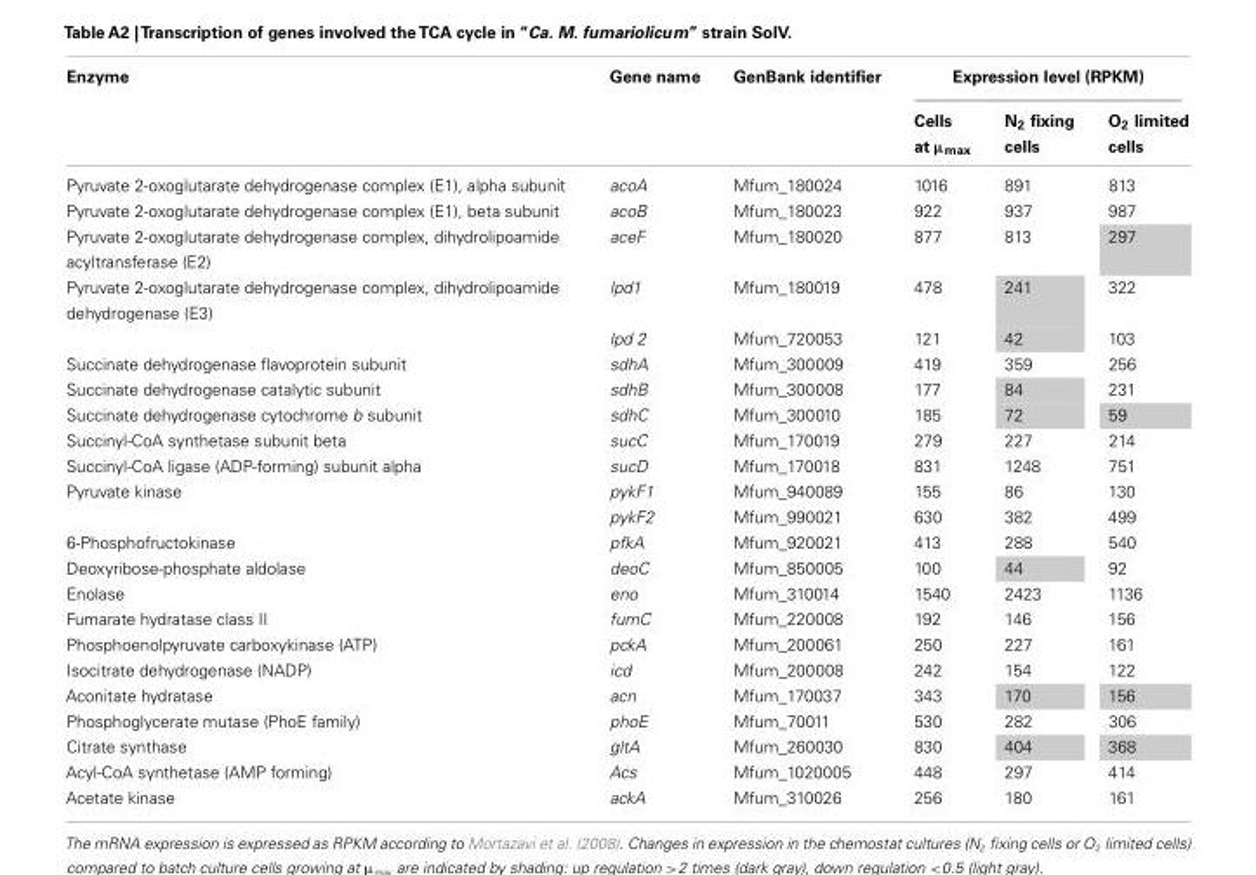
<table><thead><tr><td rowspan="2">Enzyme</td><td rowspan="2">Gene name</td><td rowspan="2">GenBank identifier</td><td colspan="3">Expression level (RPKM)</td></tr><tr><td>Cells at µ<sub>max</sub></td><td>N<sub>2</sub> fixing cells</td><td>O<sub>2</sub> limited cells</td></tr></thead><tbody><tr><td>Pyruvate 2-oxoglutarate dehydrogenase complex (E1), alpha subunit</td><td>acoA</td><td>Mfum_180024</td><td>1016</td><td>891</td><td>813</td></tr><tr><td>Pyruvate 2-oxoglutarate dehydrogenase complex (E1), beta subunit</td><td>acoB</td><td>Mfum_180023</td><td>922</td><td>937</td><td>987</td></tr><tr><td>Pyruvate 2-oxoglutarate dehydrogenase complex, dihydrolipoamide acyltransferase (E2)</td><td>aceF</td><td>Mfum_180020</td><td>877</td><td>813</td><td>297</td></tr><tr><td rowspan="2">Pyruvate 2-oxoglutarate dehydrogenase complex, dihydrolipoamide dehydrogenase (E3)</td><td>lpd1</td><td>Mfum_180019</td><td>478</td><td>241</td><td>322</td></tr><tr><td>lpd 2</td><td>Mfum_720053</td><td>121</td><td>42</td><td>103</td></tr><tr><td>Succinate dehydrogenase flavoprotein subunit</td><td>sdhA</td><td>Mfum_300009</td><td>419</td><td>359</td><td>256</td></tr><tr><td>Succinate dehydrogenase catalytic subunit</td><td>sdhB</td><td>Mfum_300008</td><td>177</td><td>84</td><td>231</td></tr><tr><td>Succinate dehydrogenase cytochrome b subunit</td><td>sdhC</td><td>Mfum_300010</td><td>185</td><td>72</td><td>59</td></tr><tr><td>Succinyl-CoA synthetase subunit beta</td><td>sucC</td><td>Mfum_170019</td><td>279</td><td>227</td><td>214</td></tr><tr><td>Succinyl-CoA ligase (ADP-forming) subunit alpha</td><td>sucD</td><td>Mfum_170018</td><td>831</td><td>1248</td><td>751</td></tr><tr><td rowspan="2">Pyruvate kinase</td><td>pykF1</td><td>Mfum_940089</td><td>155</td><td>86</td><td>130</td></tr><tr><td>pykF2</td><td>Mfum_990021</td><td>630</td><td>382</td><td>499</td></tr><tr><td>6-Phosphofructokinase</td><td>pfkA</td><td>Mfum_920021</td><td>413</td><td>288</td><td>540</td></tr><tr><td>Deoxyribose-phosphate aldolase</td><td>deoC</td><td>Mfum_850005</td><td>100</td><td>44</td><td>92</td></tr><tr><td>Enolase</td><td>eno</td><td>Mfum_310014</td><td>1540</td><td>2423</td><td>1136</td></tr><tr><td>Fumarate hydratase class II</td><td>fumC</td><td>Mfum_220008</td><td>192</td><td>146</td><td>156</td></tr><tr><td>Phosphoenolpyruvate carboxykinase (ATP)</td><td>pckA</td><td>Mfum_200061</td><td>250</td><td>227</td><td>161</td></tr><tr><td>Isocitrate dehydrogenase (NADP)</td><td>icd</td><td>Mfum_200008</td><td>242</td><td>154</td><td>122</td></tr><tr><td>Aconitate hydratase</td><td>acn</td><td>Mfum_170037</td><td>343</td><td>170</td><td>156</td></tr><tr><td>Phosphoglycerate mutase (PhoE family)</td><td>phoE</td><td>Mfum_70011</td><td>530</td><td>282</td><td>306</td></tr><tr><td>Citrate synthase</td><td>gltA</td><td>Mfum_260030</td><td>830</td><td>404</td><td>368</td></tr><tr><td>Acyl-CoA synthetase (AMP forming)</td><td>Acs</td><td>Mfum_1020005</td><td>448</td><td>297</td><td>414</td></tr><tr><td>Acetate kinase</td><td>ackA</td><td>Mfum_310026</td><td>256</td><td>180</td><td>161</td></tr></tbody></table>